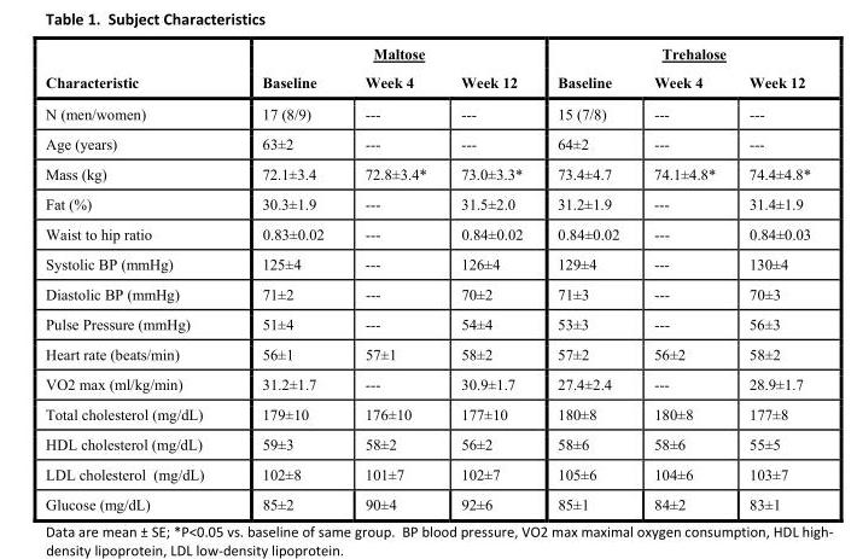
<table><thead><tr><td rowspan="2">Characteristic</td><td colspan="3">Maltose</td><td colspan="3">Trehalose</td></tr><tr><td>Baseline</td><td>Week 4</td><td>Week 12</td><td>Baseline</td><td>Week 4</td><td>Week 12</td></tr></thead><tbody><tr><td>N (men/women)</td><td>17 (8/9)</td><td>---</td><td>---</td><td>15 (7/8)</td><td>---</td><td>---</td></tr><tr><td>Age (years)</td><td>63±2</td><td>---</td><td>---</td><td>64±2</td><td>---</td><td>---</td></tr><tr><td>Mass (kg)</td><td>72.1±3.4</td><td>72.8±3.4*</td><td>73.0±3.3*</td><td>73.4±4.7</td><td>74.1±4.8*</td><td>74.4±4.8*</td></tr><tr><td>Fat (%)</td><td>30.3±1.9</td><td>---</td><td>31.5±2.0</td><td>31.2±1.9</td><td>---</td><td>31.4±1.9</td></tr><tr><td>Waist to hip ratio</td><td>0.83±0.02</td><td>---</td><td>0.84±0.02</td><td>0.84±0.02</td><td>---</td><td>0.84±0.03</td></tr><tr><td>Systolic BP (mmHg)</td><td>125±4</td><td>---</td><td>126±4</td><td>129±4</td><td>---</td><td>130±4</td></tr><tr><td>Diastolic BP (mmHg)</td><td>71±2</td><td>---</td><td>70±2</td><td>71±3</td><td>---</td><td>70±3</td></tr><tr><td>Pulse Pressure (mmHg)</td><td>51±4</td><td>---</td><td>54±4</td><td>53±3</td><td>---</td><td>56±3</td></tr><tr><td>Heart rate (beats/min)</td><td>56±1</td><td>57±1</td><td>58±2</td><td>57±2</td><td>56±2</td><td>58±2</td></tr><tr><td>VO2 max (ml/kg/min)</td><td>31.2±1.7</td><td>---</td><td>30.9±1.7</td><td>27.4±2.4</td><td>---</td><td>28.9±1.7</td></tr><tr><td>Total cholesterol (mg/dL)</td><td>179±10</td><td>176±10</td><td>177±10</td><td>180±8</td><td>180±8</td><td>177±8</td></tr><tr><td>HDL cholesterol (mg/dL)</td><td>59±3</td><td>58±2</td><td>56±2</td><td>58±6</td><td>58±6</td><td>55±5</td></tr><tr><td>LDL cholesterol (mg/dL)</td><td>102±8</td><td>101±7</td><td>102±7</td><td>105±6</td><td>104±6</td><td>103±7</td></tr><tr><td>Glucose (mg/dL)</td><td>85±2</td><td>90±4</td><td>92±6</td><td>85±1</td><td>84±2</td><td>83±1</td></tr></tbody></table>